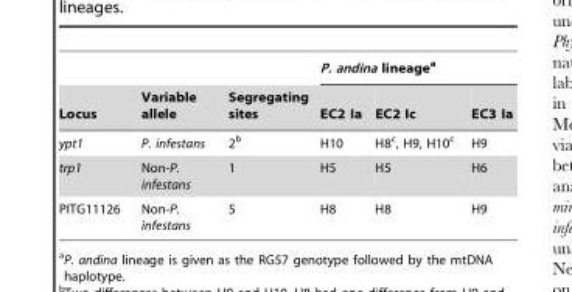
<table><thead><tr><td rowspan="2">Locus</td><td rowspan="2">Variable allele</td><td rowspan="2">Segregating sites</td><td colspan="3">P. andina lineage<sup>a</sup></td></tr><tr><td>EC2 Ia</td><td>EC2 Ic</td><td>EC3 Ia</td></tr></thead><tbody><tr><td>ypt1</td><td>P. infestans</td><td>2<sup>b</sup></td><td>H10</td><td>H8<sup>c</sup>, H9, H10<sup>c</sup></td><td>H9</td></tr><tr><td>trp1</td><td>Non-P. infestans</td><td>1</td><td>H5</td><td>H5</td><td>H6</td></tr><tr><td>PITG11126</td><td>Non-P. infestans</td><td>5</td><td>H8</td><td>H8</td><td>H9</td></tr></tbody></table>